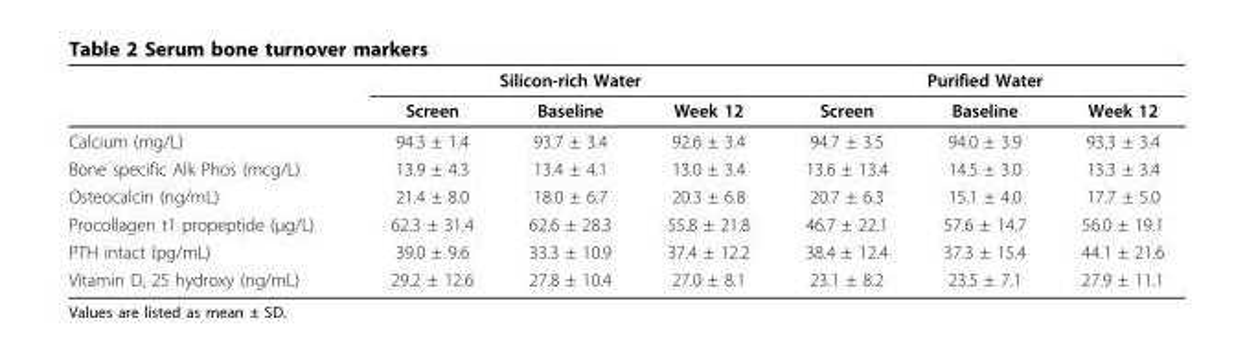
<table><thead><tr><td rowspan="2"></td><td colspan="3">Silicon-rich Water</td><td colspan="3">Purified Water</td></tr><tr><td>Screen</td><td>Baseline</td><td>Week 12</td><td>Screen</td><td>Baseline</td><td>Week 12</td></tr></thead><tbody><tr><td>Calcium (mg/L)</td><td>94.3 ± 1.4</td><td>93.7 ± 3.4</td><td>92.6 ± 3.4</td><td>94.7 ± 3.5</td><td>94.0 ± 3.9</td><td>93.3 ± 3.4</td></tr><tr><td>Bone specific Alk Phos (mcg/L)</td><td>13.9 ± 4.3</td><td>13.4 ± 4.1</td><td>13.0 ± 3.4</td><td>13.6 ± 13.4</td><td>14.5 ± 3.0</td><td>13.3 ± 3.4</td></tr><tr><td>Osteocalcin (ng/mL)</td><td>21.4 ± 8.0</td><td>18.0 ± 6.7</td><td>20.3 ± 6.8</td><td>20.7 ± 6.3</td><td>15.1 ± 4.0</td><td>17.7 ± 5.0</td></tr><tr><td>Procollagen t1 propeptide (μg/L)</td><td>62.3 ± 31.4</td><td>62.6 ± 28.3</td><td>55.8 ± 21.8</td><td>46.7 ± 22.1</td><td>57.6 ± 14.7</td><td>56.0 ± 19.1</td></tr><tr><td>PTH intact (pg/mL)</td><td>39.0 ± 9.6</td><td>33.3 ± 10.9</td><td>37.4 ± 12.2</td><td>38.4 ± 12.4</td><td>37.3 ± 15.4</td><td>44.1 ± 21.6</td></tr><tr><td>Vitamin D, 25 hydroxy (ng/mL)</td><td>29.2 ± 12.6</td><td>27.8 ± 10.4</td><td>27.0 ± 8.1</td><td>23.1 ± 8.2</td><td>23.5 ± 7.1</td><td>27.9 ± 11.1</td></tr></tbody></table>